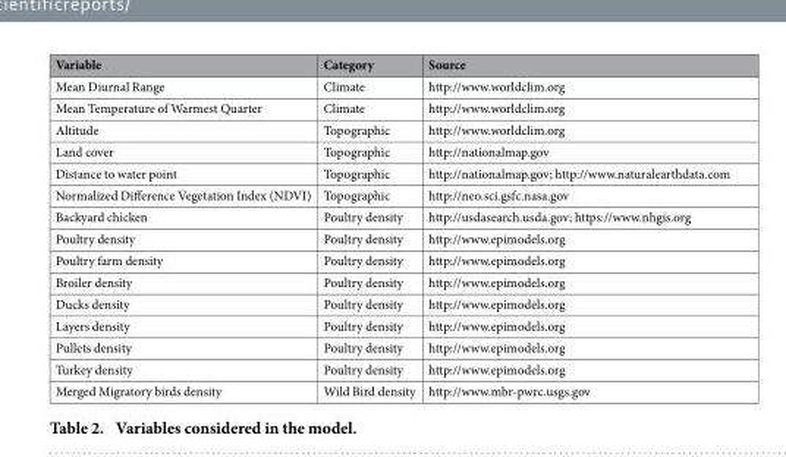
<table><thead><tr><td>Variable</td><td>Category</td><td>Source</td></tr></thead><tbody><tr><td>Mean Diurnal Range</td><td>Climate</td><td>http://www.worldclim.org</td></tr><tr><td>Mean Temperature of Warmest Quarter</td><td>Climate</td><td>http://www.worldclim.org</td></tr><tr><td>Altitude</td><td>Topographic</td><td>http://www.worldclim.org</td></tr><tr><td>Land cover</td><td>Topographic</td><td>http://nationalmap.gov</td></tr><tr><td>Distance to water point</td><td>Topographic</td><td>http://nationalmap.gov; http://www.naturalearthdata.com</td></tr><tr><td>Normalized Difference Vegetation Index (NDVI)</td><td>Topographic</td><td>http://neo.sci.gsfc.nasa.gov</td></tr><tr><td>Backyard chicken</td><td>Poultry density</td><td>http://usdasearch.usda.gov; https://www.nhgis.org</td></tr><tr><td>Poultry density</td><td>Poultry density</td><td>http://www.epimodels.org</td></tr><tr><td>Poultry farm density</td><td>Poultry density</td><td>http://www.epimodels.org</td></tr><tr><td>Broiler density</td><td>Poultry density</td><td>http://www.epimodels.org</td></tr><tr><td>Ducks density</td><td>Poultry density</td><td>http://www.epimodels.org</td></tr><tr><td>Layers density</td><td>Poultry density</td><td>http://www.epimodels.org</td></tr><tr><td>Pullets density</td><td>Poultry density</td><td>http://www.epimodels.org</td></tr><tr><td>Turkey density</td><td>Poultry density</td><td>http://www.epimodels.org</td></tr><tr><td>Merged Migratory birds density</td><td>Wild Bird density</td><td>http://www.mbr-pwrc.usgs.gov</td></tr></tbody></table>